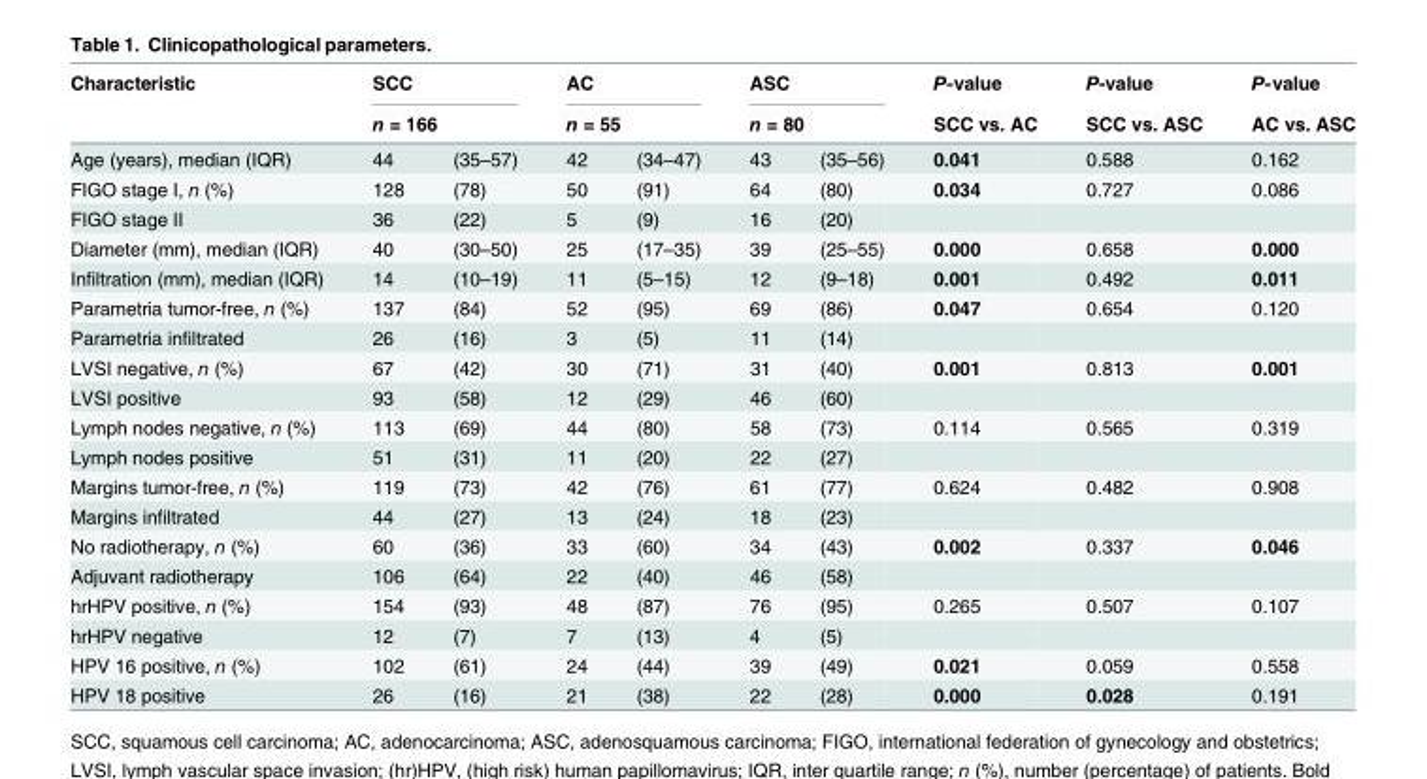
<table><thead><tr><td rowspan="3">Characteristic Age (years), median (IQR)</td><td rowspan="2" colspan="2">SCC n = 166</td><td rowspan="2" colspan="2">AC n = 55</td><td rowspan="2" colspan="2">ASC n = 80</td><td rowspan="3">P-value SCC vs. AC 0.041</td><td rowspan="3">P-value SCC vs. ASC 0.588</td><td rowspan="3">P-value AC vs. ASC 0.162</td></tr><tr></tr><tr><td>44</td><td>(35–57)</td><td>42</td><td>(34–47)</td><td>43</td><td>(35–56)</td></tr></thead><tbody><tr><td>FIGO stage I, n (%)</td><td>128</td><td>(78)</td><td>50</td><td>(91)</td><td>64</td><td>(80)</td><td>0.034</td><td>0.727</td><td>0.086</td></tr><tr><td>FIGO stage II</td><td>36</td><td>(22)</td><td>5</td><td>(9)</td><td>16</td><td>(20)</td><td></td><td></td><td></td></tr><tr><td>Diameter (mm), median (IQR)</td><td>40</td><td>(30–50)</td><td>25</td><td>(17–35)</td><td>39</td><td>(25–55)</td><td>0.000</td><td>0.658</td><td>0.000</td></tr><tr><td>Infiltration (mm), median (IQR)</td><td>14</td><td>(10–19)</td><td>11</td><td>(5–15)</td><td>12</td><td>(9–18)</td><td>0.001</td><td>0.492</td><td>0.011</td></tr><tr><td>Parametria tumor-free, n (%)</td><td>137</td><td>(84)</td><td>52</td><td>(95)</td><td>69</td><td>(86)</td><td>0.047</td><td>0.654</td><td>0.120</td></tr><tr><td>Parametria infiltrated</td><td>26</td><td>(16)</td><td>3</td><td>(5)</td><td>11</td><td>(14)</td><td></td><td></td><td></td></tr><tr><td>LVSI negative, n (%)</td><td>67</td><td>(42)</td><td>30</td><td>(71)</td><td>31</td><td>(40)</td><td>0.001</td><td>0.813</td><td>0.001</td></tr><tr><td>LVSI positive</td><td>93</td><td>(58)</td><td>12</td><td>(29)</td><td>46</td><td>(60)</td><td></td><td></td><td></td></tr><tr><td>Lymph nodes negative, n (%)</td><td>113</td><td>(69)</td><td>44</td><td>(80)</td><td>58</td><td>(73)</td><td>0.114</td><td>0.565</td><td>0.319</td></tr><tr><td>Lymph nodes positive</td><td>51</td><td>(31)</td><td>11</td><td>(20)</td><td>22</td><td>(27)</td><td></td><td></td><td></td></tr><tr><td>Margins tumor-free, n (%)</td><td>119</td><td>(73)</td><td>42</td><td>(76)</td><td>61</td><td>(77)</td><td>0.624</td><td>0.482</td><td>0.908</td></tr><tr><td>Margins infiltrated</td><td>44</td><td>(27)</td><td>13</td><td>(24)</td><td>18</td><td>(23)</td><td></td><td></td><td></td></tr><tr><td>No radiotherapy, n (%)</td><td>60</td><td>(36)</td><td>33</td><td>(60)</td><td>34</td><td>(43)</td><td>0.002</td><td>0.337</td><td>0.046</td></tr><tr><td>Adjuvant radiotherapy</td><td>106</td><td>(64)</td><td>22</td><td>(40)</td><td>46</td><td>(58)</td><td></td><td></td><td></td></tr><tr><td>hrHPV positive, n (%)</td><td>154</td><td>(93)</td><td>48</td><td>(87)</td><td>76</td><td>(95)</td><td>0.265</td><td>0.507</td><td>0.107</td></tr><tr><td>hrHPV negative</td><td>12</td><td>(7)</td><td>7</td><td>(13)</td><td>4</td><td>(5)</td><td></td><td></td><td></td></tr><tr><td>HPV 16 positive, n (%)</td><td>102</td><td>(61)</td><td>24</td><td>(44)</td><td>39</td><td>(49)</td><td>0.021</td><td>0.059</td><td>0.558</td></tr><tr><td>HPV 18 positive</td><td>26</td><td>(16)</td><td>21</td><td>(38)</td><td>22</td><td>(28)</td><td>0.000</td><td>0.028</td><td>0.191</td></tr></tbody></table>